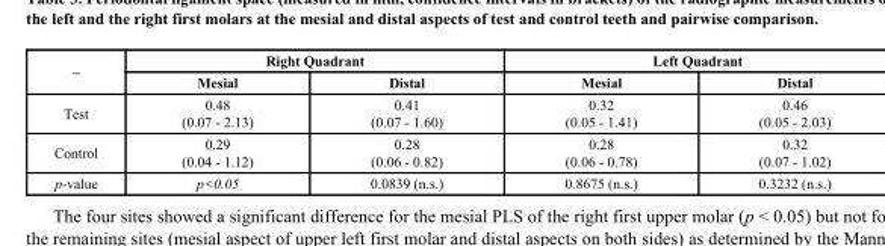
<table><thead><tr><td rowspan="2">–</td><td colspan="2">Right Quadrant</td><td colspan="2">Left Quadrant</td></tr><tr><td>Mesial</td><td>Distal</td><td>Mesial</td><td>Distal</td></tr></thead><tbody><tr><td>Test</td><td>0.48 (0.07 - 2.13)</td><td>0.41 (0.07 - 1.60)</td><td>0.32 (0.05 - 1.41)</td><td>0.46 (0.05 - 2.03)</td></tr><tr><td>Control</td><td>0.29 (0.04 - 1.12)</td><td>0.28 (0.06 - 0.82)</td><td>0.28 (0.06 - 0.78)</td><td>0.32 (0.07 - 1.02)</td></tr><tr><td>p-value</td><td>p&lt;0.05</td><td>0.0839 (n.s.)</td><td>0.8675 (n.s.)</td><td>0.3232 (n.s.)</td></tr></tbody></table>